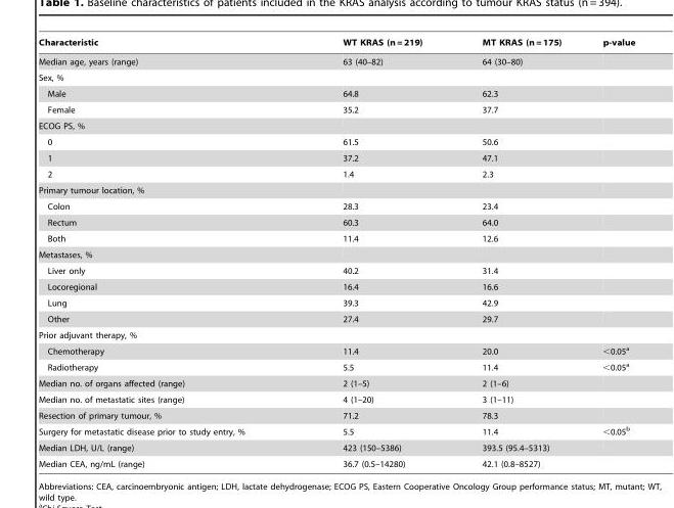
<table><thead><tr><td>Characteristic</td><td>WT KRAS (n = 219)</td><td>MT KRAS (n = 175)</td><td>p-value</td></tr></thead><tbody><tr><td>Median age, years (range)</td><td>63 (40–82)</td><td>64 (30–80)</td><td></td></tr><tr><td colspan="4">Sex, %</td></tr><tr><td>Male</td><td>64.8</td><td>62.3</td><td></td></tr><tr><td>Female</td><td>35.2</td><td>37.7</td><td></td></tr><tr><td colspan="4">ECOG PS, %</td></tr><tr><td>0</td><td>61.5</td><td>50.6</td><td></td></tr><tr><td>1</td><td>37.2</td><td>47.1</td><td></td></tr><tr><td>2</td><td>1.4</td><td>2.3</td><td></td></tr><tr><td colspan="4">Primary tumour location, %</td></tr><tr><td>Colon</td><td>28.3</td><td>23.4</td><td></td></tr><tr><td>Rectum</td><td>60.3</td><td>64.0</td><td></td></tr><tr><td>Both</td><td>11.4</td><td>12.6</td><td></td></tr><tr><td colspan="4">Metastases, %</td></tr><tr><td>Liver only</td><td>40.2</td><td>31.4</td><td></td></tr><tr><td>Locoregional</td><td>16.4</td><td>16.6</td><td></td></tr><tr><td>Lung</td><td>39.3</td><td>42.9</td><td></td></tr><tr><td>Other</td><td>27.4</td><td>29.7</td><td></td></tr><tr><td colspan="4">Prior adjuvant therapy, %</td></tr><tr><td>Chemotherapy</td><td>11.4</td><td>20.0</td><td>&lt;0.05<sup>a</sup></td></tr><tr><td>Radiotherapy</td><td>5.5</td><td>11.4</td><td>&lt;0.05<sup>a</sup></td></tr><tr><td>Median no. of organs affected (range)</td><td>2 (1–5)</td><td>2 (1–6)</td><td></td></tr><tr><td>Median no. of metastatic sites (range)</td><td>4 (1–20)</td><td>3 (1–11)</td><td></td></tr><tr><td>Resection of primary tumour, %</td><td>71.2</td><td>78.3</td><td></td></tr><tr><td>Surgery for metastatic disease prior to study entry, %</td><td>5.5</td><td>11.4</td><td>&lt;0.05<sup>b</sup></td></tr><tr><td>Median LDH, U/L (range)</td><td>423 (150–5386)</td><td>393.5 (95.4–5313)</td><td></td></tr><tr><td>Median CEA, ng/mL (range)</td><td>36.7 (0.5–14280)</td><td>42.1 (0.8–8527)</td><td></td></tr></tbody></table>